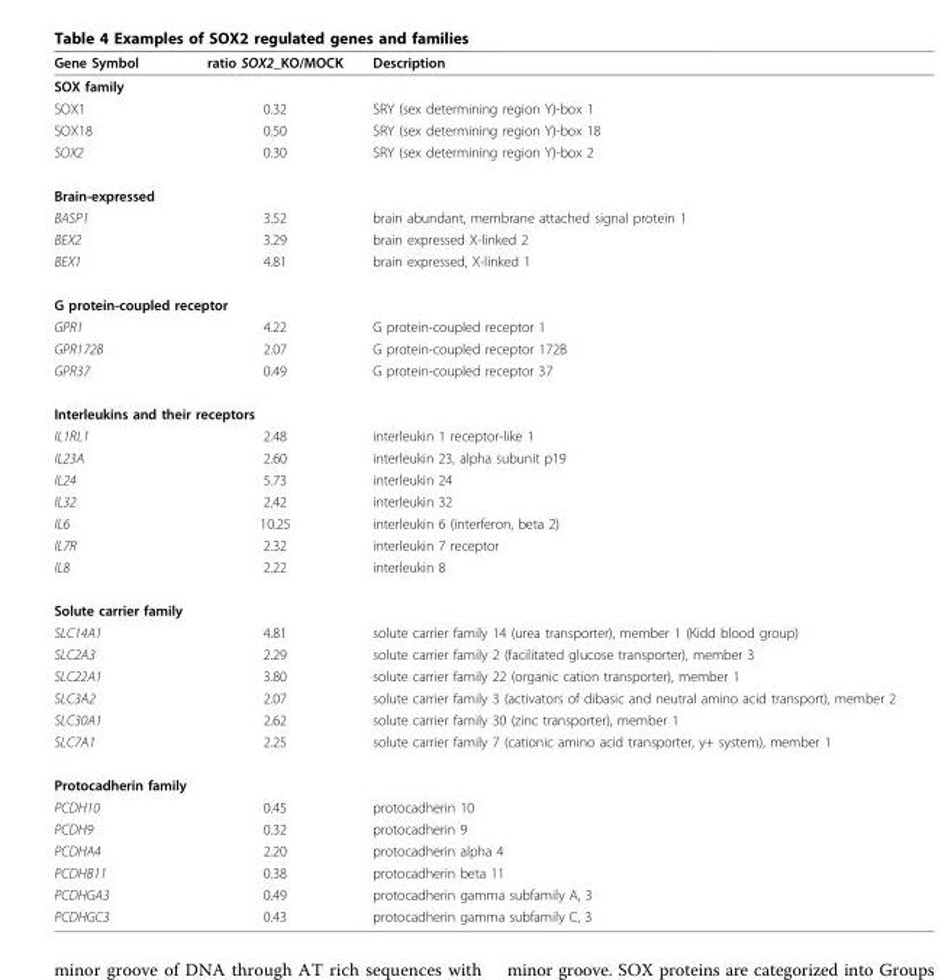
<table><thead><tr><td>Gene Symbol</td><td>ratio SOX2_KO/MOCK</td><td>Description</td></tr></thead><tbody><tr><td colspan="3">SOX family</td></tr><tr><td>SOX1</td><td>0.32</td><td>SRY (sex determining region Y)-box 1</td></tr><tr><td>SOX18</td><td>0.50</td><td>SRY (sex determining region Y)-box 18</td></tr><tr><td>SOX2</td><td>0.30</td><td>SRY (sex determining region Y)-box 2</td></tr><tr><td colspan="3">Brain-expressed</td></tr><tr><td>BASP1</td><td>3.52</td><td>brain abundant, membrane attached signal protein 1</td></tr><tr><td>BEX2</td><td>3.29</td><td>brain expressed X-linked 2</td></tr><tr><td>BEX1</td><td>4.81</td><td>brain expressed, X-linked 1</td></tr><tr><td colspan="3">G protein-coupled receptor</td></tr><tr><td>GPR1</td><td>4.22</td><td>G protein-coupled receptor 1</td></tr><tr><td>GPR172B</td><td>2.07</td><td>G protein-coupled receptor 172B</td></tr><tr><td>GPR37</td><td>0.49</td><td>G protein-coupled receptor 37</td></tr><tr><td colspan="3">Interleukins and their receptors</td></tr><tr><td>IL1RL1</td><td>2.48</td><td>interleukin 1 receptor-like 1</td></tr><tr><td>IL23A</td><td>2.60</td><td>interleukin 23, alpha subunit p19</td></tr><tr><td>IL24</td><td>5.73</td><td>interleukin 24</td></tr><tr><td>IL32</td><td>2.42</td><td>interleukin 32</td></tr><tr><td>IL6</td><td>10.25</td><td>interleukin 6 (interferon, beta 2)</td></tr><tr><td>IL7R</td><td>2.32</td><td>interleukin 7 receptor</td></tr><tr><td>IL8</td><td>2.22</td><td>interleukin 8</td></tr><tr><td colspan="3">Solute carrier family</td></tr><tr><td>SLC14A1</td><td>4.81</td><td>solute carrier family 14 (urea transporter), member 1 (Kidd blood group)</td></tr><tr><td>SLC2A3</td><td>2.29</td><td>solute carrier family 2 (facilitated glucose transporter), member 3</td></tr><tr><td>SLC22A1</td><td>3.80</td><td>solute carrier family 22 (organic cation transporter), member 1</td></tr><tr><td>SLC3A2</td><td>2.07</td><td>solute carrier family 3 (activators of dibasic and neutral amino acid transport), member 2</td></tr><tr><td>SLC30A1</td><td>2.62</td><td>solute carrier family 30 (zinc transporter), member 1</td></tr><tr><td>SLC7A1</td><td>2.25</td><td>solute carrier family 7 (cationic amino acid transporter, y+ system), member 1</td></tr><tr><td colspan="3">Protocadherin family</td></tr><tr><td>PCDH10</td><td>0.45</td><td>protocadherin 10</td></tr><tr><td>PCDH9</td><td>0.32</td><td>protocadherin 9</td></tr><tr><td>PCDHA4</td><td>2.20</td><td>protocadherin alpha 4</td></tr><tr><td>PCDHB11</td><td>0.38</td><td>protocadherin beta 11</td></tr><tr><td>PCDHGA3</td><td>0.49</td><td>protocadherin gamma subfamily A, 3</td></tr><tr><td>PCDHGC3</td><td>0.43</td><td>protocadherin gamma subfamily C, 3</td></tr></tbody></table>